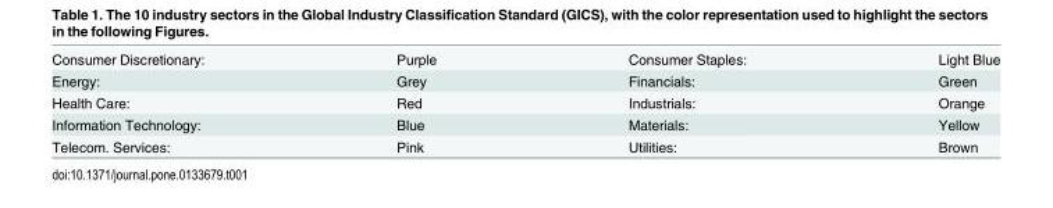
<table><tbody><tr><td>Consumer Discretionary:</td><td>Purple</td><td>Consumer Staples:</td><td>Light Blue</td></tr><tr><td>Energy:</td><td>Grey</td><td>Financials:</td><td>Green</td></tr><tr><td>Health Care:</td><td>Red</td><td>Industrials:</td><td>Orange</td></tr><tr><td>Information Technology:</td><td>Blue</td><td>Materials:</td><td>Yellow</td></tr><tr><td>Telecom. Services:</td><td>Pink</td><td>Utilities:</td><td>Brown</td></tr></tbody></table>